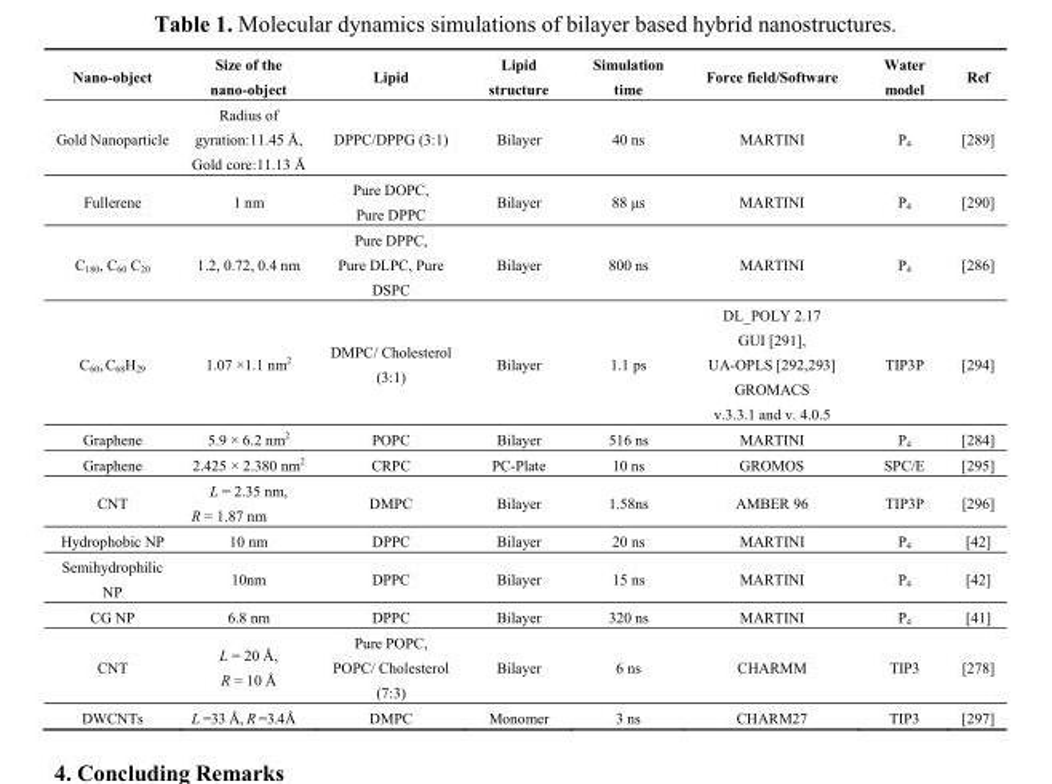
<table><thead><tr><td>Nano-object</td><td>Size of the nano-object</td><td>Lipid</td><td>Lipid structure</td><td>Simulation time</td><td>Force field/Software</td><td>Water model</td><td>Ref</td></tr></thead><tbody><tr><td>Gold Nanoparticle</td><td>Radius of gyration:11.45 Å, Gold core:11.13 Å</td><td>DPPC/DPPG (3:1)</td><td>Bilayer</td><td>40 ns</td><td>MARTINI</td><td>P<sub>4</sub></td><td>[289]</td></tr><tr><td>Fullerene</td><td>1 nm</td><td>Pure DOPC, Pure DPPC</td><td>Bilayer</td><td>88 μs</td><td>MARTINI</td><td>P<sub>4</sub></td><td>[290]</td></tr><tr><td>C<sub>180</sub>, C<sub>60</sub> C<sub>20</sub></td><td>1.2, 0.72, 0.4 nm</td><td>Pure DPPC, Pure DLPC, Pure DSPC</td><td>Bilayer</td><td>800 ns</td><td>MARTINI</td><td>P<sub>4</sub></td><td>[286]</td></tr><tr><td>C<sub>60</sub>, C<sub>68</sub>H<sub>29</sub></td><td>1.07 ×1.1 nm<sup>2</sup></td><td>DMPC/ Cholesterol (3:1)</td><td>Bilayer</td><td>1.1 ps</td><td>DL_POLY 2.17 GUI [291], UA-OPLS [292,293] GROMACS v.3.3.1 and v. 4.0.5</td><td>TIP3P</td><td>[294]</td></tr><tr><td>Graphene</td><td>5.9 × 6.2 nm<sup>2</sup></td><td>POPC</td><td>Bilayer</td><td>516 ns</td><td>MARTINI</td><td>P<sub>4</sub></td><td>[284]</td></tr><tr><td>Graphene</td><td>2.425 × 2.380 nm<sup>2</sup></td><td>CRPC</td><td>PC-Plate</td><td>10 ns</td><td>GROMOS</td><td>SPC/E</td><td>[295]</td></tr><tr><td>CNT</td><td>L = 2.35 nm, R = 1.87 nm</td><td>DMPC</td><td>Bilayer</td><td>1.58ns</td><td>AMBER 96</td><td>TIP3P</td><td>[296]</td></tr><tr><td>Hydrophobic NP</td><td>10 nm</td><td>DPPC</td><td>Bilayer</td><td>20 ns</td><td>MARTINI</td><td>P<sub>4</sub></td><td>[42]</td></tr><tr><td>Semihydrophilic NP</td><td>10nm</td><td>DPPC</td><td>Bilayer</td><td>15 ns</td><td>MARTINI</td><td>P<sub>4</sub></td><td>[42]</td></tr><tr><td>CG NP</td><td>6.8 nm</td><td>DPPC</td><td>Bilayer</td><td>320 ns</td><td>MARTINI</td><td>P<sub>4</sub></td><td>[41]</td></tr><tr><td>CNT</td><td>L = 20 Å, R = 10 Å</td><td>Pure POPC, POPC/ Cholesterol (7:3)</td><td>Bilayer</td><td>6 ns</td><td>CHARMM</td><td>TIP3</td><td>[278]</td></tr><tr><td>DWCNTs</td><td>L =33 Å, R =3.4Å</td><td>DMPC</td><td>Monomer</td><td>3 ns</td><td>CHARM27</td><td>TIP3</td><td>[297]</td></tr></tbody></table>